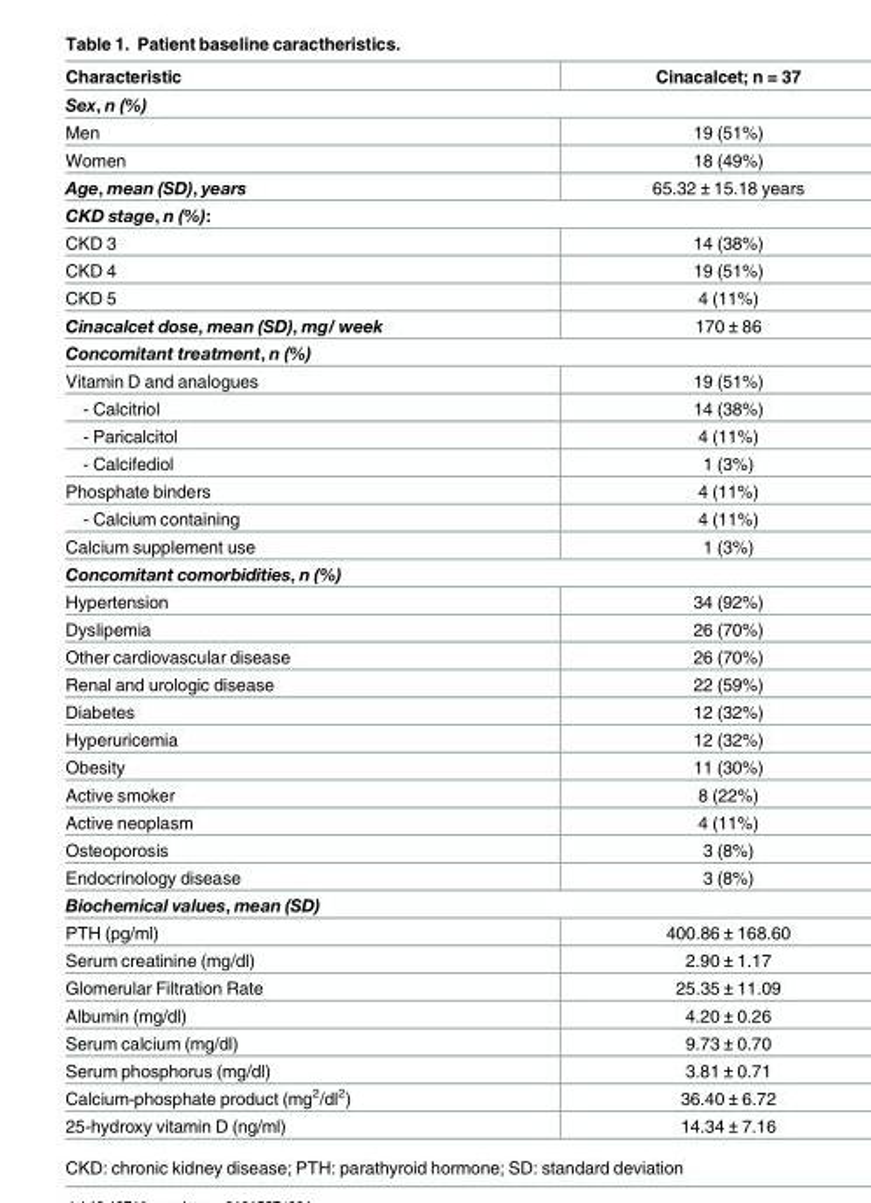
<table><thead><tr><td>Characteristic</td><td>Cinacalcet; n = 37</td></tr></thead><tbody><tr><td colspan="2">Sex, n (%)</td></tr><tr><td>Men</td><td>19 (51%)</td></tr><tr><td>Women</td><td>18 (49%)</td></tr><tr><td>Age, mean (SD), years</td><td>65.32 ± 15.18 years</td></tr><tr><td colspan="2">CKD stage, n (%):</td></tr><tr><td>CKD 3</td><td>14 (38%)</td></tr><tr><td>CKD 4</td><td>19 (51%)</td></tr><tr><td>CKD 5</td><td>4 (11%)</td></tr><tr><td>Cinacalcet dose, mean (SD), mg/ week</td><td>170 ± 86</td></tr><tr><td colspan="2">Concomitant treatment, n (%)</td></tr><tr><td>Vitamin D and analogues</td><td>19 (51%)</td></tr><tr><td>- Calcitriol</td><td>14 (38%)</td></tr><tr><td>- Paricalcitol</td><td>4 (11%)</td></tr><tr><td>- Calcifediol</td><td>1 (3%)</td></tr><tr><td>Phosphate binders</td><td>4 (11%)</td></tr><tr><td>- Calcium containing</td><td>4 (11%)</td></tr><tr><td>Calcium supplement use</td><td>1 (3%)</td></tr><tr><td colspan="2">Concomitant comorbidities, n (%)</td></tr><tr><td>Hypertension</td><td>34 (92%)</td></tr><tr><td>Dyslipemia</td><td>26 (70%)</td></tr><tr><td>Other cardiovascular disease</td><td>26 (70%)</td></tr><tr><td>Renal and urologic disease</td><td>22 (59%)</td></tr><tr><td>Diabetes</td><td>12 (32%)</td></tr><tr><td>Hyperuricemia</td><td>12 (32%)</td></tr><tr><td>Obesity</td><td>11 (30%)</td></tr><tr><td>Active smoker</td><td>8 (22%)</td></tr><tr><td>Active neoplasm</td><td>4 (11%)</td></tr><tr><td>Osteoporosis</td><td>3 (8%)</td></tr><tr><td>Endocrinology disease</td><td>3 (8%)</td></tr><tr><td colspan="2">Biochemical values, mean (SD)</td></tr><tr><td>PTH (pg/ml)</td><td>400.86 ± 168.60</td></tr><tr><td>Serum creatinine (mg/dl)</td><td>2.90 ± 1.17</td></tr><tr><td>Glomerular Filtration Rate</td><td>25.35 ± 11.09</td></tr><tr><td>Albumin (mg/dl)</td><td>4.20 ± 0.26</td></tr><tr><td>Serum calcium (mg/dl)</td><td>9.73 ± 0.70</td></tr><tr><td>Serum phosphorus (mg/dl)</td><td>3.81 ± 0.71</td></tr><tr><td>Calcium-phosphate product (mg<sup>2</sup>/dl<sup>2</sup>)</td><td>36.40 ± 6.72</td></tr><tr><td>25-hydroxy vitamin D (ng/ml)</td><td>14.34 ± 7.16</td></tr></tbody></table>